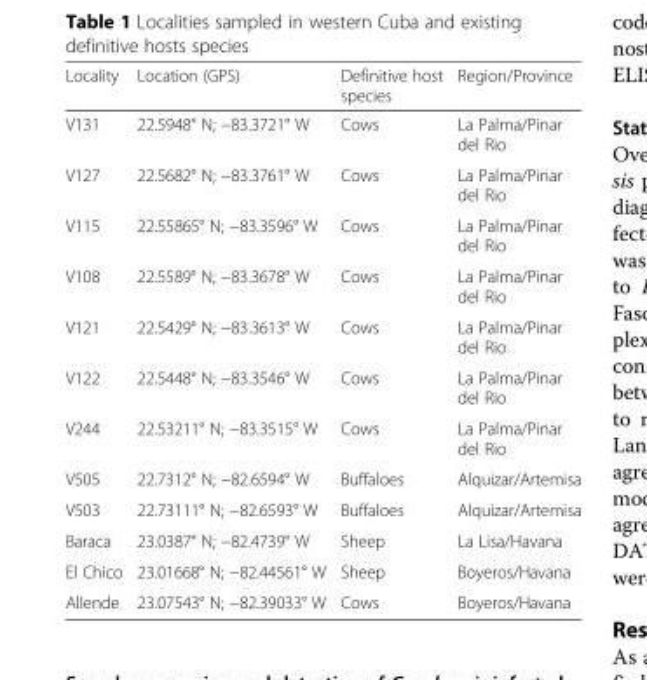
<table><thead><tr><td>Locality</td><td>Location (GPS)</td><td>Definitive host species</td><td>Region/Province</td></tr></thead><tbody><tr><td>V131</td><td>22.5948° N; −83.3721° W</td><td>Cows</td><td>La Palma/Pinar del Rio</td></tr><tr><td>V127</td><td>22.5682° N; −83.3761° W</td><td>Cows</td><td>La Palma/Pinar del Rio</td></tr><tr><td>V115</td><td>22.55865° N; −83.3596° W</td><td>Cows</td><td>La Palma/Pinar del Rio</td></tr><tr><td>V108</td><td>22.5589° N; −83.3678° W</td><td>Cows</td><td>La Palma/Pinar del Rio</td></tr><tr><td>V121</td><td>22.5429° N; −83.3613° W</td><td>Cows</td><td>La Palma/Pinar del Rio</td></tr><tr><td>V122</td><td>22.5448° N; −83.3546° W</td><td>Cows</td><td>La Palma/Pinar del Rio</td></tr><tr><td>V244</td><td>22.53211° N; −83.3515° W</td><td>Cows</td><td>La Palma/Pinar del Rio</td></tr><tr><td>V505</td><td>22.7312° N; −82.6594° W</td><td>Buffaloes</td><td>Alquizar/Artemisa</td></tr><tr><td>V503</td><td>22.73111° N; −82.6593° W</td><td>Buffaloes</td><td>Alquizar/Artemisa</td></tr><tr><td>Baraca</td><td>23.0387° N; −82.4739° W</td><td>Sheep</td><td>La Lisa/Havana</td></tr><tr><td>El Chico</td><td>23.01668° N; −82.44561° W</td><td>Sheep</td><td>Boyeros/Havana</td></tr><tr><td>Allende</td><td>23.07543° N; −82.39033° W</td><td>Cows</td><td>Boyeros/Havana</td></tr></tbody></table>